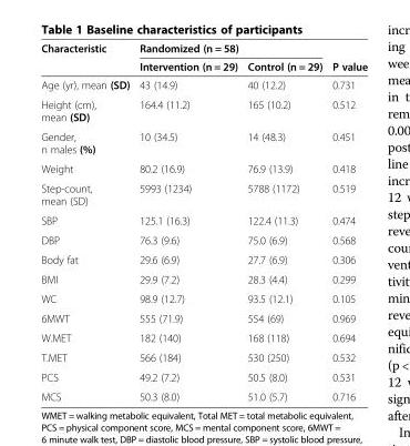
<table><thead><tr><td rowspan="2">Characteristic</td><td colspan="2">Randomized (n = 58)</td><td rowspan="2">P value</td></tr><tr><td>Intervention (n = 29)</td><td>Control (n = 29)</td></tr></thead><tbody><tr><td>Age (yr), mean (SD)</td><td>43 (14.9)</td><td>40 (12.2)</td><td>0.731</td></tr><tr><td>Height (cm), mean (SD)</td><td>164.4 (11.2)</td><td>165 (10.2)</td><td>0.512</td></tr><tr><td>Gender, n males (%)</td><td>10 (34.5)</td><td>14 (48.3)</td><td>0.451</td></tr><tr><td>Weight</td><td>80.2 (16.9)</td><td>76.9 (13.9)</td><td>0.418</td></tr><tr><td>Step-count, mean (SD)</td><td>5993 (1234)</td><td>5788 (1172)</td><td>0.519</td></tr><tr><td>SBP</td><td>125.1 (16.3)</td><td>122.4 (11.3)</td><td>0.474</td></tr><tr><td>DBP</td><td>76.3 (9.6)</td><td>75.0 (6.9)</td><td>0.568</td></tr><tr><td>Body fat</td><td>29.6 (6.9)</td><td>27.7 (6.9)</td><td>0.306</td></tr><tr><td>BMI</td><td>29.9 (7.2)</td><td>28.3 (4.4)</td><td>0.299</td></tr><tr><td>WC</td><td>98.9 (12.7)</td><td>93.5 (12.1)</td><td>0.105</td></tr><tr><td>6MWT</td><td>555 (71.9)</td><td>554 (69)</td><td>0.969</td></tr><tr><td>W.MET</td><td>182 (140)</td><td>168 (118)</td><td>0.694</td></tr><tr><td>T.MET</td><td>566 (184)</td><td>530 (250)</td><td>0.532</td></tr><tr><td>PCS</td><td>49.2 (7.2)</td><td>50.5 (8.0)</td><td>0.531</td></tr><tr><td>MCS</td><td>50.3 (8.0)</td><td>51.0 (5.7)</td><td>0.716</td></tr></tbody></table>